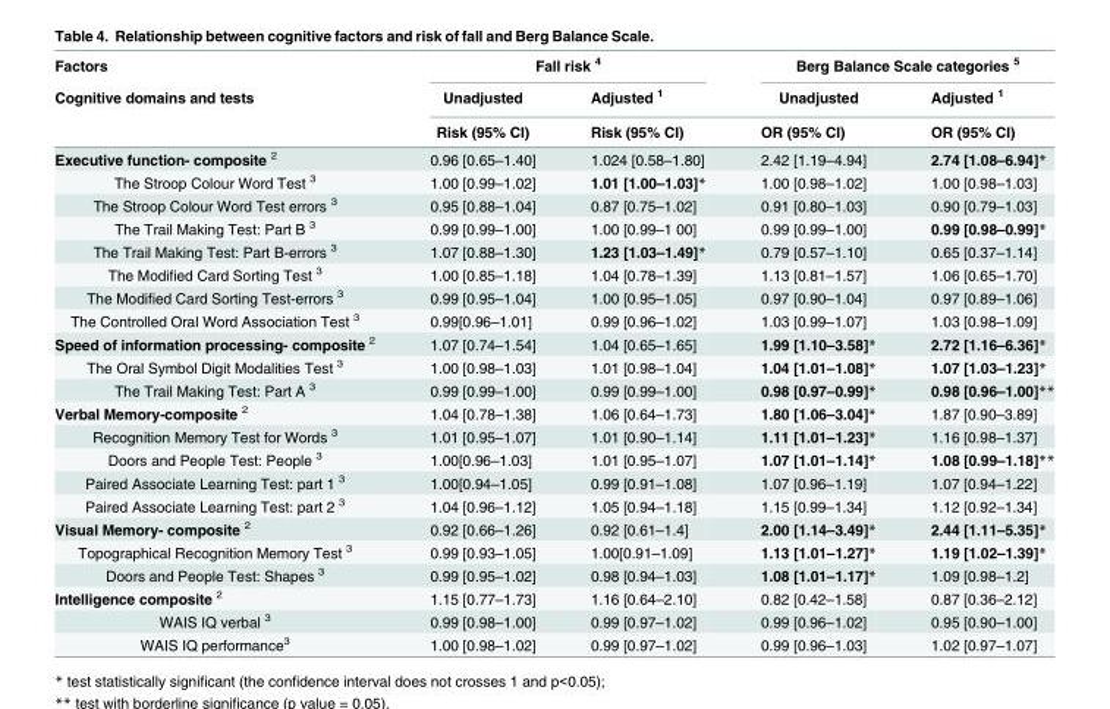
<table><thead><tr><td rowspan="3">Factors Cognitive domains and tests</td><td colspan="2">Fall risk <sup>4</sup></td><td colspan="2">Berg Balance Scale categories <sup>5</sup></td></tr><tr><td rowspan="2">Unadjusted Risk (95% CI)</td><td rowspan="2">Adjusted <sup>1</sup> Risk (95% CI)</td><td rowspan="2">Unadjusted OR (95% CI)</td><td rowspan="2">Adjusted <sup>1</sup> OR (95% CI)</td></tr><tr></tr></thead><tbody><tr><td>Executive function- composite <sup>2</sup></td><td>0.96 [0.65–1.40]</td><td>1.024 [0.58–1.80]</td><td>2.42 [1.19–4.94]</td><td>2.74 [1.08–6.94]*</td></tr><tr><td>The Stroop Colour Word Test <sup>3</sup></td><td>1.00 [0.99–1.02]</td><td>1.01 [1.00–1.03]*</td><td>1.00 [0.98–1.02]</td><td>1.00 [0.98–1.03]</td></tr><tr><td>The Stroop Colour Word Test errors <sup>3</sup></td><td>0.95 [0.88–1.04]</td><td>0.87 [0.75–1.02]</td><td>0.91 [0.80–1.03]</td><td>0.90 [0.79–1.03]</td></tr><tr><td>The Trail Making Test: Part B <sup>3</sup></td><td>0.99 [0.99–1.00]</td><td>1.00 [0.99–1 00]</td><td>0.99 [0.99–1.00]</td><td>0.99 [0.98–0.99]*</td></tr><tr><td>The Trail Making Test: Part B-errors <sup>3</sup></td><td>1.07 [0.88–1.30]</td><td>1.23 [1.03–1.49]*</td><td>0.79 [0.57–1.10]</td><td>0.65 [0.37–1.14]</td></tr><tr><td>The Modified Card Sorting Test <sup>3</sup></td><td>1.00 [0.85–1.18]</td><td>1.04 [0.78–1.39]</td><td>1.13 [0.81–1.57]</td><td>1.06 [0.65–1.70]</td></tr><tr><td>The Modified Card Sorting Test-errors <sup>3</sup></td><td>0.99 [0.95–1.04]</td><td>1.00 [0.95–1.05]</td><td>0.97 [0.90–1.04]</td><td>0.97 [0.89–1.06]</td></tr><tr><td>The Controlled Oral Word Association Test <sup>3</sup></td><td>0.99[0.96–1.01]</td><td>0.99 [0.96–1.02]</td><td>1.03 [0.99–1.07]</td><td>1.03 [0.98–1.09]</td></tr><tr><td>Speed of information processing- composite <sup>2</sup></td><td>1.07 [0.74–1.54]</td><td>1.04 [0.65–1.65]</td><td>1.99 [1.10–3.58]*</td><td>2.72 [1.16–6.36]*</td></tr><tr><td>The Oral Symbol Digit Modalities Test <sup>3</sup></td><td>1.00 [0.98–1.03]</td><td>1.01 [0.98–1.04]</td><td>1.04 [1.01–1.08]*</td><td>1.07 [1.03–1.23]*</td></tr><tr><td>The Trail Making Test: Part A <sup>3</sup></td><td>0.99 [0.99–1.00]</td><td>0.99 [0.99–1.00]</td><td>0.98 [0.97–0.99]*</td><td>0.98 [0.96–1.00]**</td></tr><tr><td>Verbal Memory-composite <sup>2</sup></td><td>1.04 [0.78–1.38]</td><td>1.06 [0.64–1.73]</td><td>1.80 [1.06–3.04]*</td><td>1.87 [0.90–3.89]</td></tr><tr><td>Recognition Memory Test for Words <sup>3</sup></td><td>1.01 [0.95–1.07]</td><td>1.01 [0.90–1.14]</td><td>1.11 [1.01–1.23]*</td><td>1.16 [0.98–1.37]</td></tr><tr><td>Doors and People Test: People <sup>3</sup></td><td>1.00[0.96–1.03]</td><td>1.01 [0.95–1.07]</td><td>1.07 [1.01–1.14]*</td><td>1.08 [0.99–1.18]**</td></tr><tr><td>Paired Associate Learning Test: part 1 <sup>3</sup></td><td>1.00[0.94–1.05]</td><td>0.99 [0.91–1.08]</td><td>1.07 [0.96–1.19]</td><td>1.07 [0.94–1.22]</td></tr><tr><td>Paired Associate Learning Test: part 2 <sup>3</sup></td><td>1.04 [0.96–1.12]</td><td>1.05 [0.94–1.18]</td><td>1.15 [0.99–1.34]</td><td>1.12 [0.92–1.34]</td></tr><tr><td>Visual Memory- composite <sup>2</sup></td><td>0.92 [0.66–1.26]</td><td>0.92 [0.61–1.4]</td><td>2.00 [1.14–3.49]*</td><td>2.44 [1.11–5.35]*</td></tr><tr><td>Topographical Recognition Memory Test <sup>3</sup></td><td>0.99 [0.93–1.05]</td><td>1.00[0.91–1.09]</td><td>1.13 [1.01–1.27]*</td><td>1.19 [1.02–1.39]*</td></tr><tr><td>Doors and People Test: Shapes <sup>3</sup></td><td>0.99 [0.95–1.02]</td><td>0.98 [0.94–1.03]</td><td>1.08 [1.01–1.17]*</td><td>1.09 [0.98–1.2]</td></tr><tr><td>Intelligence composite <sup>2</sup></td><td>1.15 [0.77–1.73]</td><td>1.16 [0.64–2.10]</td><td>0.82 [0.42–1.58]</td><td>0.87 [0.36–2.12]</td></tr><tr><td>WAIS IQ verbal <sup>3</sup></td><td>0.99 [0.98–1.00]</td><td>0.99 [0.97–1.02]</td><td>0.99 [0.96–1.02]</td><td>0.95 [0.90–1.00]</td></tr><tr><td>WAIS IQ performance<sup>3</sup></td><td>1.00 [0.98–1.02]</td><td>0.99 [0.97–1.02]</td><td>0.99 [0.96–1.03]</td><td>1.02 [0.97–1.07]</td></tr></tbody></table>